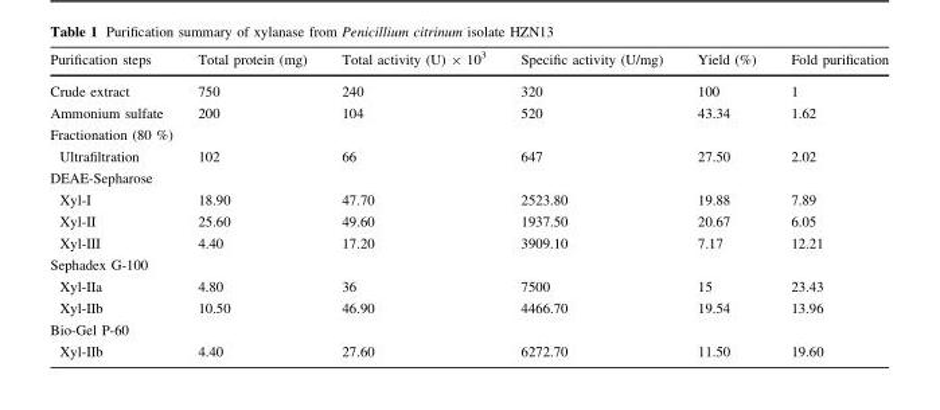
<table><thead><tr><td>Purification steps</td><td>Total protein (mg)</td><td>Total activity (U) × 10<sup>3</sup></td><td>Specific activity (U/mg)</td><td>Yield (%)</td><td>Fold purification</td></tr></thead><tbody><tr><td>Crude extract</td><td>750</td><td>240</td><td>320</td><td>100</td><td>1</td></tr><tr><td>Ammonium sulfate</td><td>200</td><td>104</td><td>520</td><td>43.34</td><td>1.62</td></tr><tr><td colspan="6">Fractionation (80 %)</td></tr><tr><td>Ultrafiltration</td><td>102</td><td>66</td><td>647</td><td>27.50</td><td>2.02</td></tr><tr><td colspan="6">DEAE-Sepharose</td></tr><tr><td>Xyl-I</td><td>18.90</td><td>47.70</td><td>2523.80</td><td>19.88</td><td>7.89</td></tr><tr><td>Xyl-II</td><td>25.60</td><td>49.60</td><td>1937.50</td><td>20.67</td><td>6.05</td></tr><tr><td>Xyl-III</td><td>4.40</td><td>17.20</td><td>3909.10</td><td>7.17</td><td>12.21</td></tr><tr><td colspan="6">Sephadex G-100</td></tr><tr><td>Xyl-IIa</td><td>4.80</td><td>36</td><td>7500</td><td>15</td><td>23.43</td></tr><tr><td>Xyl-IIb</td><td>10.50</td><td>46.90</td><td>4466.70</td><td>19.54</td><td>13.96</td></tr><tr><td colspan="6">Bio-Gel P-60</td></tr><tr><td>Xyl-IIb</td><td>4.40</td><td>27.60</td><td>6272.70</td><td>11.50</td><td>19.60</td></tr></tbody></table>